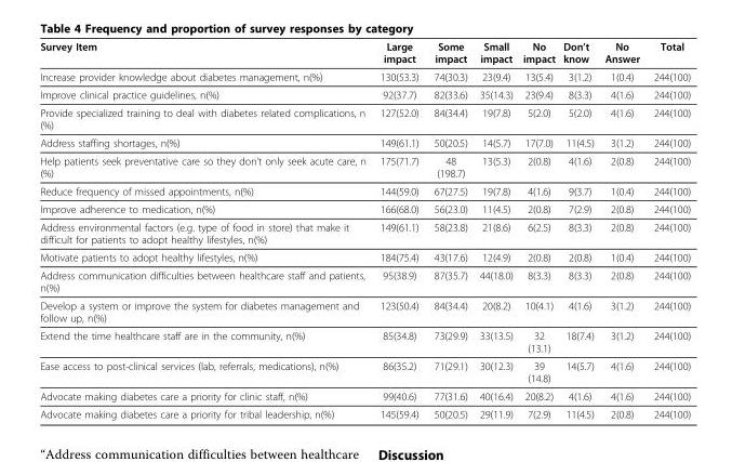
<table><thead><tr><td>Survey Item</td><td>Large impact</td><td>Some impact</td><td>Small impact</td><td>No impact</td><td>Don’t know</td><td>No Answer</td><td>Total</td></tr></thead><tbody><tr><td>Increase provider knowledge about diabetes management, n(%)</td><td>130(53.3)</td><td>74(30.3)</td><td>23(9.4)</td><td>13(5.4)</td><td>3(1.2)</td><td>1(0.4)</td><td>244(100)</td></tr><tr><td>Improve clinical practice guidelines, n(%)</td><td>92(37.7)</td><td>82(33.6)</td><td>35(14.3)</td><td>23(9.4)</td><td>8(3.3)</td><td>4(1.6)</td><td>244(100)</td></tr><tr><td>Provide specialized training to deal with diabetes related complications, n (%)</td><td>127(52.0)</td><td>84(34.4)</td><td>19(7.8)</td><td>5(2.0)</td><td>5(2.0)</td><td>4(1.6)</td><td>244(100)</td></tr><tr><td>Address staffing shortages, n(%)</td><td>149(61.1)</td><td>50(20.5)</td><td>14(5.7)</td><td>17(7.0)</td><td>11(4.5)</td><td>3(1.2)</td><td>244(100)</td></tr><tr><td>Help patients seek preventative care so they don’t only seek acute care, n (%)</td><td>175(71.7)</td><td>48 (198.7)</td><td>13(5.3)</td><td>2(0.8)</td><td>4(1.6)</td><td>2(0.8)</td><td>244(100)</td></tr><tr><td>Reduce frequency of missed appointments, n(%)</td><td>144(59.0)</td><td>67(27.5)</td><td>19(7.8)</td><td>4(1.6)</td><td>9(3.7)</td><td>1(0.4)</td><td>244(100)</td></tr><tr><td>Improve adherence to medication, n(%)</td><td>166(68.0)</td><td>56(23.0)</td><td>11(4.5)</td><td>2(0.8)</td><td>7(2.9)</td><td>2(0.8)</td><td>244(100)</td></tr><tr><td>Address environmental factors (e.g. type of food in store) that make it difficult for patients to adopt healthy lifestyles, n(%)</td><td>149(61.1)</td><td>58(23.8)</td><td>21(8.6)</td><td>6(2.5)</td><td>8(3.3)</td><td>2(0.8)</td><td>244(100)</td></tr><tr><td>Motivate patients to adopt healthy lifestyles, n(%)</td><td>184(75.4)</td><td>43(17.6)</td><td>12(4.9)</td><td>2(0.8)</td><td>2(0.8)</td><td>1(0.4)</td><td>244(100)</td></tr><tr><td>Address communication difficulties between healthcare staff and patients, n(%)</td><td>95(38.9)</td><td>87(35.7)</td><td>44(18.0)</td><td>8(3.3)</td><td>8(3.3)</td><td>2(0.8)</td><td>244(100)</td></tr><tr><td>Develop a system or improve the system for diabetes management and follow up, n(%)</td><td>123(50.4)</td><td>84(34.4)</td><td>20(8.2)</td><td>10(4.1)</td><td>4(1.6)</td><td>3(1.2)</td><td>244(100)</td></tr><tr><td>Extend the time healthcare staff are in the community, n(%)</td><td>85(34.8)</td><td>73(29.9)</td><td>33(13.5)</td><td>32 (13.1)</td><td>18(7.4)</td><td>3(1.2)</td><td>244(100)</td></tr><tr><td>Ease access to post-clinical services (lab, referrals, medications), n(%)</td><td>86(35.2)</td><td>71(29.1)</td><td>30(12.3)</td><td>39 (14.8)</td><td>14(5.7)</td><td>4(1.6)</td><td>244(100)</td></tr><tr><td>Advocate making diabetes care a priority for clinic staff, n(%)</td><td>99(40.6)</td><td>77(31.6)</td><td>40(16.4)</td><td>20(8.2)</td><td>4(1.6)</td><td>4(1.6)</td><td>244(100)</td></tr><tr><td>Advocate making diabetes care a priority for tribal leadership, n(%)</td><td>145(59.4)</td><td>50(20.5)</td><td>29(11.9)</td><td>7(2.9)</td><td>11(4.5)</td><td>2(0.8)</td><td>244(100)</td></tr></tbody></table>